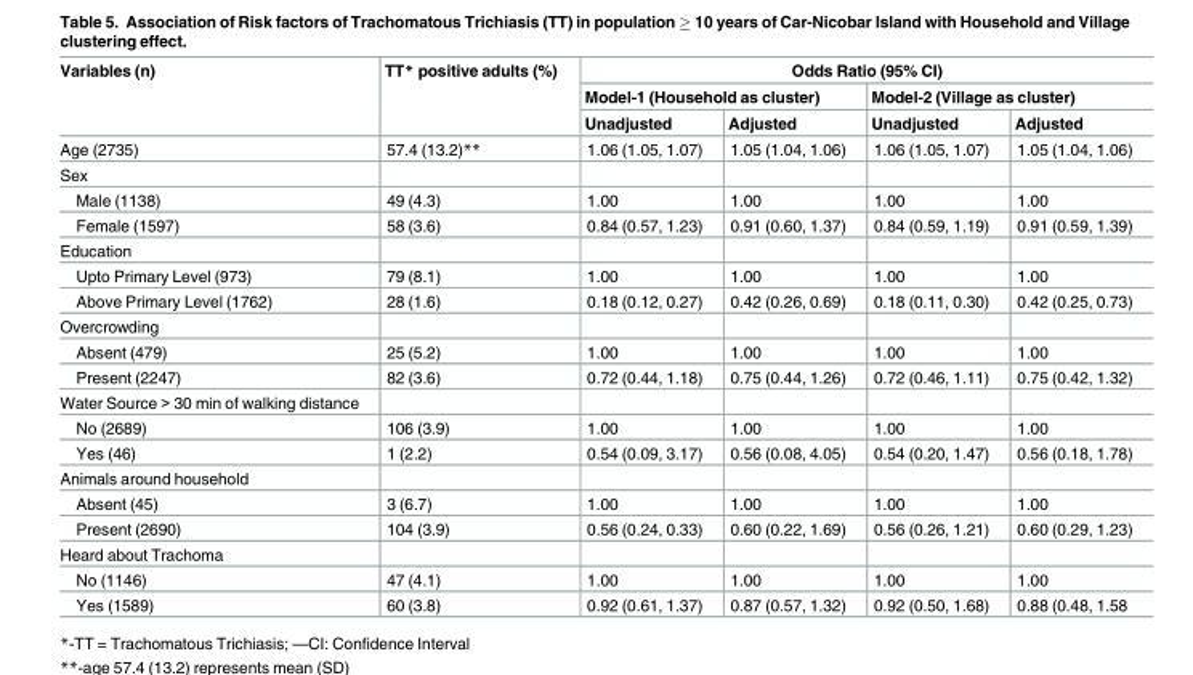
<table><thead><tr><td rowspan="3">Variables (n)</td><td rowspan="3">TT* positive adults (%)</td><td colspan="4">Odds Ratio (95% CI)</td></tr><tr><td colspan="2">Model-1 (Household as cluster)</td><td colspan="2">Model-2 (Village as cluster)</td></tr><tr><td>Unadjusted</td><td>Adjusted</td><td>Unadjusted</td><td>Adjusted</td></tr></thead><tbody><tr><td>Age (2735)</td><td>57.4 (13.2)**</td><td>1.06 (1.05, 1.07)</td><td>1.05 (1.04, 1.06)</td><td>1.06 (1.05, 1.07)</td><td>1.05 (1.04, 1.06)</td></tr><tr><td colspan="6">Sex</td></tr><tr><td>Male (1138)</td><td>49 (4.3)</td><td>1.00</td><td>1.00</td><td>1.00</td><td>1.00</td></tr><tr><td>Female (1597)</td><td>58 (3.6)</td><td>0.84 (0.57, 1.23)</td><td>0.91 (0.60, 1.37)</td><td>0.84 (0.59, 1.19)</td><td>0.91 (0.59, 1.39)</td></tr><tr><td colspan="6">Education</td></tr><tr><td>Upto Primary Level (973)</td><td>79 (8.1)</td><td>1.00</td><td>1.00</td><td>1.00</td><td>1.00</td></tr><tr><td>Above Primary Level (1762)</td><td>28 (1.6)</td><td>0.18 (0.12, 0.27)</td><td>0.42 (0.26, 0.69)</td><td>0.18 (0.11, 0.30)</td><td>0.42 (0.25, 0.73)</td></tr><tr><td colspan="6">Overcrowding</td></tr><tr><td>Absent (479)</td><td>25 (5.2)</td><td>1.00</td><td>1.00</td><td>1.00</td><td>1.00</td></tr><tr><td>Present (2247)</td><td>82 (3.6)</td><td>0.72 (0.44, 1.18)</td><td>0.75 (0.44, 1.26)</td><td>0.72 (0.46, 1.11)</td><td>0.75 (0.42, 1.32)</td></tr><tr><td colspan="6">Water Source &gt; 30 min of walking distance</td></tr><tr><td>No (2689)</td><td>106 (3.9)</td><td>1.00</td><td>1.00</td><td>1.00</td><td>1.00</td></tr><tr><td>Yes (46)</td><td>1 (2.2)</td><td>0.54 (0.09, 3.17)</td><td>0.56 (0.08, 4.05)</td><td>0.54 (0.20, 1.47)</td><td>0.56 (0.18, 1.78)</td></tr><tr><td colspan="6">Animals around household</td></tr><tr><td>Absent (45)</td><td>3 (6.7)</td><td>1.00</td><td>1.00</td><td>1.00</td><td>1.00</td></tr><tr><td>Present (2690)</td><td>104 (3.9)</td><td>0.56 (0.24, 0.33)</td><td>0.60 (0.22, 1.69)</td><td>0.56 (0.26, 1.21)</td><td>0.60 (0.29, 1.23)</td></tr><tr><td colspan="6">Heard about Trachoma</td></tr><tr><td>No (1146)</td><td>47 (4.1)</td><td>1.00</td><td>1.00</td><td>1.00</td><td>1.00</td></tr><tr><td>Yes (1589)</td><td>60 (3.8)</td><td>0.92 (0.61, 1.37)</td><td>0.87 (0.57, 1.32)</td><td>0.92 (0.50, 1.68)</td><td>0.88 (0.48, 1.58</td></tr></tbody></table>